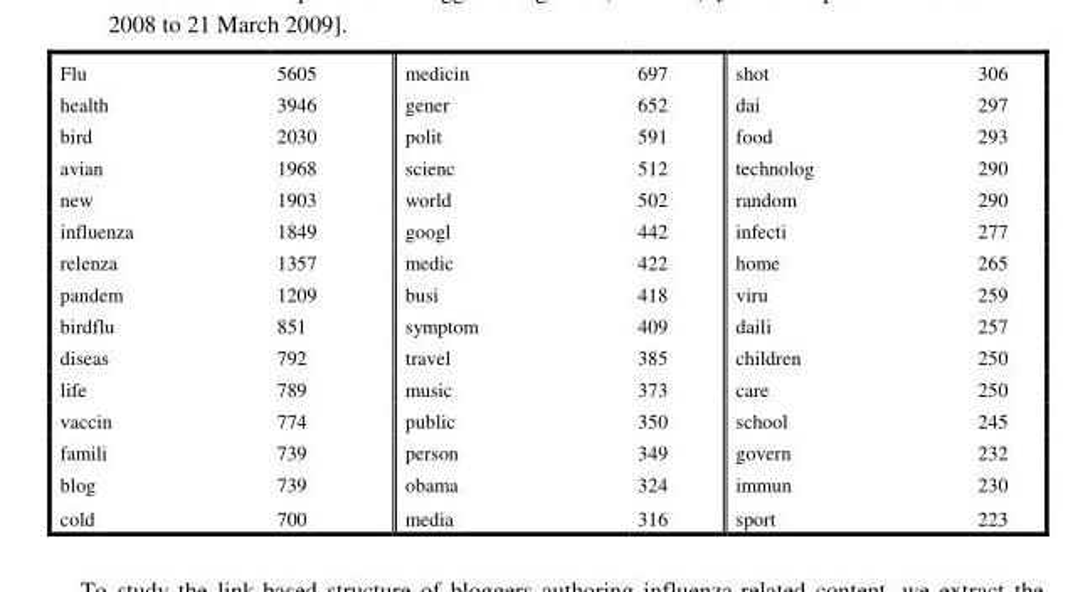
<table><tbody><tr><td>Flu</td><td>5605</td><td>medicin</td><td>697</td><td>shot</td><td>306</td></tr><tr><td>health</td><td>3946</td><td>gener</td><td>652</td><td>dai</td><td>297</td></tr><tr><td>bird</td><td>2030</td><td>polit</td><td>591</td><td>food</td><td>293</td></tr><tr><td>avian</td><td>1968</td><td>scienc</td><td>512</td><td>technolog</td><td>290</td></tr><tr><td>new</td><td>1903</td><td>world</td><td>502</td><td>random</td><td>290</td></tr><tr><td>influenza</td><td>1849</td><td>googl</td><td>442</td><td>infecti</td><td>277</td></tr><tr><td>relenza</td><td>1357</td><td>medic</td><td>422</td><td>home</td><td>265</td></tr><tr><td>pandem</td><td>1209</td><td>busi</td><td>418</td><td>viru</td><td>259</td></tr><tr><td>birdflu</td><td>851</td><td>symptom</td><td>409</td><td>daili</td><td>257</td></tr><tr><td>diseas</td><td>792</td><td>travel</td><td>385</td><td>children</td><td>250</td></tr><tr><td>life</td><td>789</td><td>music</td><td>373</td><td>care</td><td>250</td></tr><tr><td>vaccin</td><td>774</td><td>public</td><td>350</td><td>school</td><td>245</td></tr><tr><td>famili</td><td>739</td><td>person</td><td>349</td><td>govern</td><td>232</td></tr><tr><td>blog</td><td>739</td><td>obama</td><td>324</td><td>immun</td><td>230</td></tr><tr><td>cold</td><td>700</td><td>media</td><td>316</td><td>sport</td><td>223</td></tr></tbody></table>